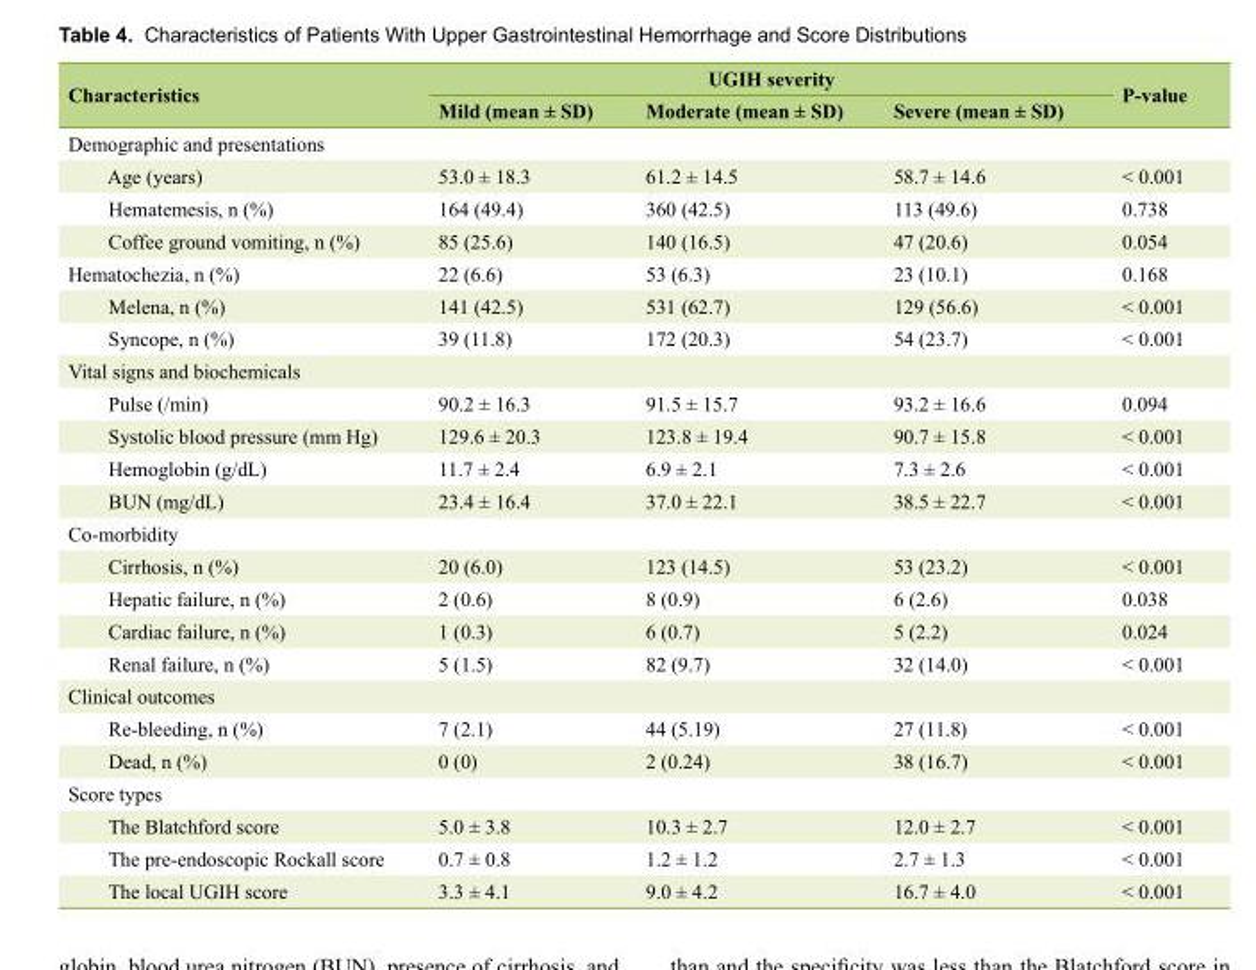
<table><thead><tr><td rowspan="2">Characteristics</td><td colspan="3">UGIH severity</td><td rowspan="2">P-value</td></tr><tr><td>Mild (mean ± SD)</td><td>Moderate (mean ± SD)</td><td>Severe (mean ± SD)</td></tr></thead><tbody><tr><td colspan="5">Demographic and presentations</td></tr><tr><td>Age (years)</td><td>53.0 ± 18.3</td><td>61.2 ± 14.5</td><td>58.7 ± 14.6</td><td>&lt; 0.001</td></tr><tr><td>Hematemesis, n (%)</td><td>164 (49.4)</td><td>360 (42.5)</td><td>113 (49.6)</td><td>0.738</td></tr><tr><td>Coffee ground vomiting, n (%)</td><td>85 (25.6)</td><td>140 (16.5)</td><td>47 (20.6)</td><td>0.054</td></tr><tr><td>Hematochezia, n (%)</td><td>22 (6.6)</td><td>53 (6.3)</td><td>23 (10.1)</td><td>0.168</td></tr><tr><td>Melena, n (%)</td><td>141 (42.5)</td><td>531 (62.7)</td><td>129 (56.6)</td><td>&lt; 0.001</td></tr><tr><td>Syncope, n (%)</td><td>39 (11.8)</td><td>172 (20.3)</td><td>54 (23.7)</td><td>&lt; 0.001</td></tr><tr><td colspan="5">Vital signs and biochemicals</td></tr><tr><td>Pulse (/min)</td><td>90.2 ± 16.3</td><td>91.5 ± 15.7</td><td>93.2 ± 16.6</td><td>0.094</td></tr><tr><td>Systolic blood pressure (mm Hg)</td><td>129.6 ± 20.3</td><td>123.8 ± 19.4</td><td>90.7 ± 15.8</td><td>&lt; 0.001</td></tr><tr><td>Hemoglobin (g/dL)</td><td>11.7 ± 2.4</td><td>6.9 ± 2.1</td><td>7.3 ± 2.6</td><td>&lt; 0.001</td></tr><tr><td>BUN (mg/dL)</td><td>23.4 ± 16.4</td><td>37.0 ± 22.1</td><td>38.5 ± 22.7</td><td>&lt; 0.001</td></tr><tr><td colspan="5">Co-morbidity</td></tr><tr><td>Cirrhosis, n (%)</td><td>20 (6.0)</td><td>123 (14.5)</td><td>53 (23.2)</td><td>&lt; 0.001</td></tr><tr><td>Hepatic failure, n (%)</td><td>2 (0.6)</td><td>8 (0.9)</td><td>6 (2.6)</td><td>0.038</td></tr><tr><td>Cardiac failure, n (%)</td><td>1 (0.3)</td><td>6 (0.7)</td><td>5 (2.2)</td><td>0.024</td></tr><tr><td>Renal failure, n (%)</td><td>5 (1.5)</td><td>82 (9.7)</td><td>32 (14.0)</td><td>&lt; 0.001</td></tr><tr><td colspan="5">Clinical outcomes</td></tr><tr><td>Re-bleeding, n (%)</td><td>7 (2.1)</td><td>44 (5.19)</td><td>27 (11.8)</td><td>&lt; 0.001</td></tr><tr><td>Dead, n (%)</td><td>0 (0)</td><td>2 (0.24)</td><td>38 (16.7)</td><td>&lt; 0.001</td></tr><tr><td colspan="5">Score types</td></tr><tr><td>The Blatchford score</td><td>5.0 ± 3.8</td><td>10.3 ± 2.7</td><td>12.0 ± 2.7</td><td>&lt; 0.001</td></tr><tr><td>The pre-endoscopic Rockall score</td><td>0.7 ± 0.8</td><td>1.2 ± 1.2</td><td>2.7 ± 1.3</td><td>&lt; 0.001</td></tr><tr><td>The local UGIH score</td><td>3.3 ± 4.1</td><td>9.0 ± 4.2</td><td>16.7 ± 4.0</td><td>&lt; 0.001</td></tr></tbody></table>